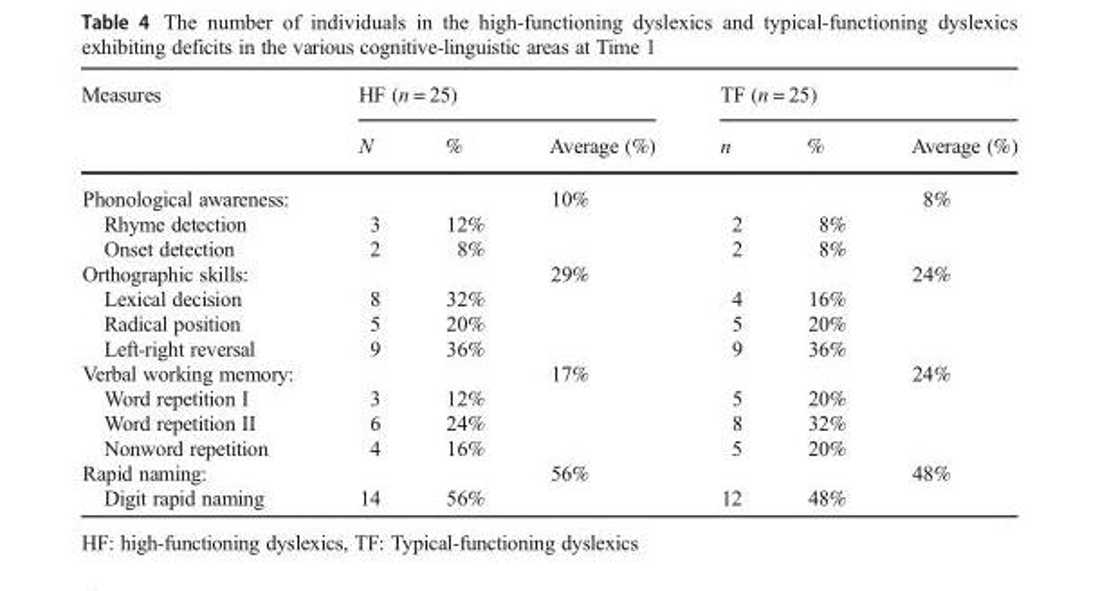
<table><thead><tr><td rowspan="2">Measures</td><td colspan="3">HF (n = 25)</td><td colspan="3">TF (n = 25)</td></tr><tr><td>N</td><td>%</td><td>Average (%)</td><td>n</td><td>%</td><td>Average (%)</td></tr></thead><tbody><tr><td>Phonological awareness:</td><td></td><td></td><td>10%</td><td></td><td></td><td>8%</td></tr><tr><td>Rhyme detection</td><td>3</td><td>12%</td><td></td><td>2</td><td>8%</td><td></td></tr><tr><td>Onset detection</td><td>2</td><td>8%</td><td></td><td>2</td><td>8%</td><td></td></tr><tr><td>Orthographic skills:</td><td></td><td></td><td>29%</td><td></td><td></td><td>24%</td></tr><tr><td>Lexical decision</td><td>8</td><td>32%</td><td></td><td>4</td><td>16%</td><td></td></tr><tr><td>Radical position</td><td>5</td><td>20%</td><td></td><td>5</td><td>20%</td><td></td></tr><tr><td>Left-right reversal</td><td>9</td><td>36%</td><td></td><td>9</td><td>36%</td><td></td></tr><tr><td>Verbal working memory:</td><td></td><td></td><td>17%</td><td></td><td></td><td>24%</td></tr><tr><td>Word repetition I</td><td>3</td><td>12%</td><td></td><td>5</td><td>20%</td><td></td></tr><tr><td>Word repetition II</td><td>6</td><td>24%</td><td></td><td>8</td><td>32%</td><td></td></tr><tr><td>Nonword repetition</td><td>4</td><td>16%</td><td></td><td>5</td><td>20%</td><td></td></tr><tr><td>Rapid naming:</td><td></td><td></td><td>56%</td><td></td><td></td><td>48%</td></tr><tr><td>Digit rapid naming</td><td>14</td><td>56%</td><td></td><td>12</td><td>48%</td><td></td></tr></tbody></table>